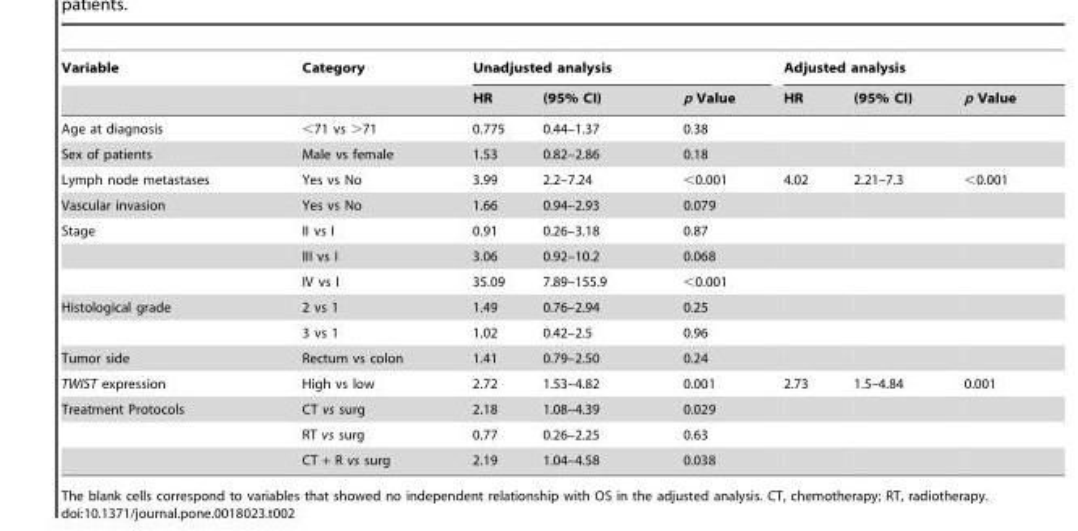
<table><thead><tr><td rowspan="2">Variable</td><td rowspan="2">Category</td><td colspan="3">Unadjusted analysis</td><td colspan="3">Adjusted analysis</td></tr><tr><td>HR</td><td>(95% CI)</td><td>p Value</td><td>HR</td><td>(95% CI)</td><td>p Value</td></tr></thead><tbody><tr><td>Age at diagnosis</td><td>&lt;71 vs &gt;71</td><td>0.775</td><td>0.44–1.37</td><td>0.38</td><td></td><td></td><td></td></tr><tr><td>Sex of patients</td><td>Male vs female</td><td>1.53</td><td>0.82–2.86</td><td>0.18</td><td></td><td></td><td></td></tr><tr><td>Lymph node metastases</td><td>Yes vs No</td><td>3.99</td><td>2.2–7.24</td><td>&lt;0.001</td><td>4.02</td><td>2.21–7.3</td><td>&lt;0.001</td></tr><tr><td>Vascular invasion</td><td>Yes vs No</td><td>1.66</td><td>0.94–2.93</td><td>0.079</td><td></td><td></td><td></td></tr><tr><td rowspan="3">Stage</td><td>II vs I</td><td>0.91</td><td>0.26–3.18</td><td>0.87</td><td></td><td></td><td></td></tr><tr><td>III vs I</td><td>3.06</td><td>0.92–10.2</td><td>0.068</td><td></td><td></td><td></td></tr><tr><td>IV vs I</td><td>35.09</td><td>7.89–155.9</td><td>&lt;0.001</td><td></td><td></td><td></td></tr><tr><td rowspan="2">Histological grade</td><td>2 vs 1</td><td>1.49</td><td>0.76–2.94</td><td>0.25</td><td></td><td></td><td></td></tr><tr><td>3 vs 1</td><td>1.02</td><td>0.42–2.5</td><td>0.96</td><td></td><td></td><td></td></tr><tr><td>Tumor side</td><td>Rectum vs colon</td><td>1.41</td><td>0.79–2.50</td><td>0.24</td><td></td><td></td><td></td></tr><tr><td>TWIST expression</td><td>High vs low</td><td>2.72</td><td>1.53–4.82</td><td>0.001</td><td>2.73</td><td>1.5–4.84</td><td>0.001</td></tr><tr><td rowspan="3">Treatment Protocols</td><td>CT vs surg</td><td>2.18</td><td>1.08–4.39</td><td>0.029</td><td></td><td></td><td></td></tr><tr><td>RT vs surg</td><td>0.77</td><td>0.26–2.25</td><td>0.63</td><td></td><td></td><td></td></tr><tr><td>CT + R vs surg</td><td>2.19</td><td>1.04–4.58</td><td>0.038</td><td></td><td></td><td></td></tr></tbody></table>